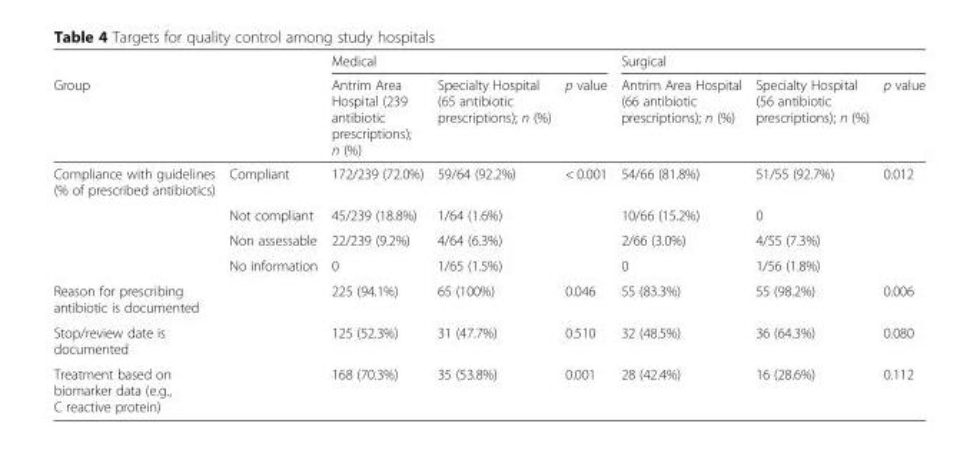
<table><thead><tr><td></td><td></td><td colspan="3">Medical</td><td colspan="3">Surgical</td></tr><tr><td colspan="2">Group</td><td>Antrim Area Hospital (239 antibiotic prescriptions); n (%)</td><td>Specialty Hospital (65 antibiotic prescriptions); n (%)</td><td>p value</td><td>Antrim Area Hospital (66 antibiotic prescriptions); n (%)</td><td>Specialty Hospital (56 antibiotic prescriptions); n (%)</td><td>p value</td></tr></thead><tbody><tr><td rowspan="4">Compliance with guidelines (% of prescribed antibiotics)</td><td>Compliant</td><td>172/239 (72.0%)</td><td>59/64 (92.2%)</td><td>&lt; 0.001</td><td>54/66 (81.8%)</td><td>51/55 (92.7%)</td><td>0.012</td></tr><tr><td>Not compliant</td><td>45/239 (18.8%)</td><td>1/64 (1.6%)</td><td></td><td>10/66 (15.2%)</td><td>0</td><td></td></tr><tr><td>Non assessable</td><td>22/239 (9.2%)</td><td>4/64 (6.3%)</td><td></td><td>2/66 (3.0%)</td><td>4/55 (7.3%)</td><td></td></tr><tr><td>No information</td><td>0</td><td>1/65 (1.5%)</td><td></td><td>0</td><td>1/56 (1.8%)</td><td></td></tr><tr><td>Reason for prescribing antibiotic is documented</td><td></td><td>225 (94.1%)</td><td>65 (100%)</td><td>0.046</td><td>55 (83.3%)</td><td>55 (98.2%)</td><td>0.006</td></tr><tr><td>Stop/review date is documented</td><td></td><td>125 (52.3%)</td><td>31 (47.7%)</td><td>0.510</td><td>32 (48.5%)</td><td>36 (64.3%)</td><td>0.080</td></tr><tr><td>Treatment based on biomarker data (e.g., C reactive protein)</td><td></td><td>168 (70.3%)</td><td>35 (53.8%)</td><td>0.001</td><td>28 (42.4%)</td><td>16 (28.6%)</td><td>0.112</td></tr></tbody></table>